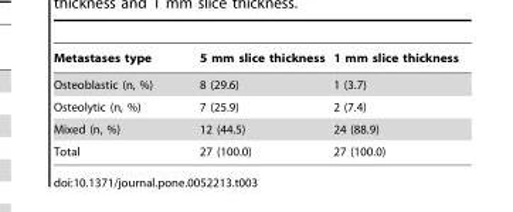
<table><thead><tr><td>Metastases type</td><td>5 mm slice thickness</td><td>1 mm slice thickness</td></tr></thead><tbody><tr><td>Osteoblastic (n, %)</td><td>8 (29.6)</td><td>1 (3.7)</td></tr><tr><td>Osteolytic (n, %)</td><td>7 (25.9)</td><td>2 (7.4)</td></tr><tr><td>Mixed (n, %)</td><td>12 (44.5)</td><td>24 (88.9)</td></tr><tr><td>Total</td><td>27 (100.0)</td><td>27 (100.0)</td></tr></tbody></table>